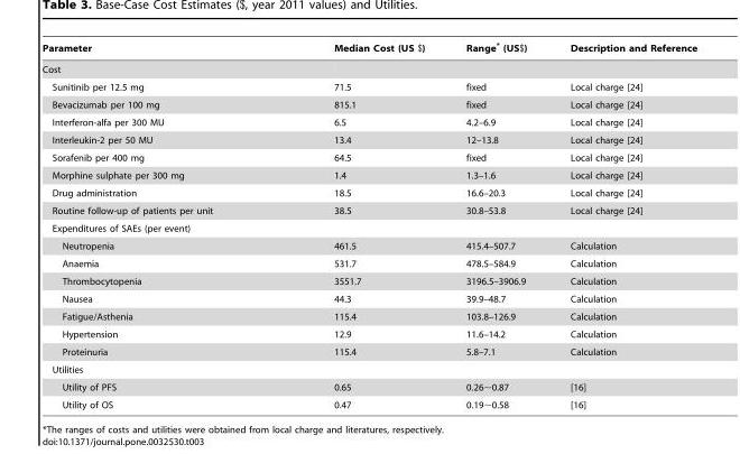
<table><thead><tr><td>Parameter</td><td>Median Cost (US $)</td><td>Range* (US$)</td><td>Description and Reference</td></tr></thead><tbody><tr><td colspan="4">Cost</td></tr><tr><td>Sunitinib per 12.5 mg</td><td>71.5</td><td>fixed</td><td>Local charge [24]</td></tr><tr><td>Bevacizumab per 100 mg</td><td>815.1</td><td>fixed</td><td>Local charge [24]</td></tr><tr><td>Interferon-alfa per 300 MU</td><td>6.5</td><td>4.2–6.9</td><td>Local charge [24]</td></tr><tr><td>Interleukin-2 per 50 MU</td><td>13.4</td><td>12–13.8</td><td>Local charge [24]</td></tr><tr><td>Sorafenib per 400 mg</td><td>64.5</td><td>fixed</td><td>Local charge [24]</td></tr><tr><td>Morphine sulphate per 300 mg</td><td>1.4</td><td>1.3–1.6</td><td>Local charge [24]</td></tr><tr><td>Drug administration</td><td>18.5</td><td>16.6–20.3</td><td>Local charge [24]</td></tr><tr><td>Routine follow-up of patients per unit</td><td>38.5</td><td>30.8–53.8</td><td>Local charge [24]</td></tr><tr><td colspan="4">Expenditures of SAEs (per event)</td></tr><tr><td>Neutropenia</td><td>461.5</td><td>415.4–507.7</td><td>Calculation</td></tr><tr><td>Anaemia</td><td>531.7</td><td>478.5–584.9</td><td>Calculation</td></tr><tr><td>Thrombocytopenia</td><td>3551.7</td><td>3196.5–3906.9</td><td>Calculation</td></tr><tr><td>Nausea</td><td>44.3</td><td>39.9–48.7</td><td>Calculation</td></tr><tr><td>Fatigue/Asthenia</td><td>115.4</td><td>103.8–126.9</td><td>Calculation</td></tr><tr><td>Hypertension</td><td>12.9</td><td>11.6–14.2</td><td>Calculation</td></tr><tr><td>Proteinuria</td><td>115.4</td><td>5.8–7.1</td><td>Calculation</td></tr><tr><td colspan="4">Utilities</td></tr><tr><td>Utility of PFS</td><td>0.65</td><td>0.26∼0.87</td><td>[16]</td></tr><tr><td>Utility of OS</td><td>0.47</td><td>0.19∼0.58</td><td>[16]</td></tr></tbody></table>